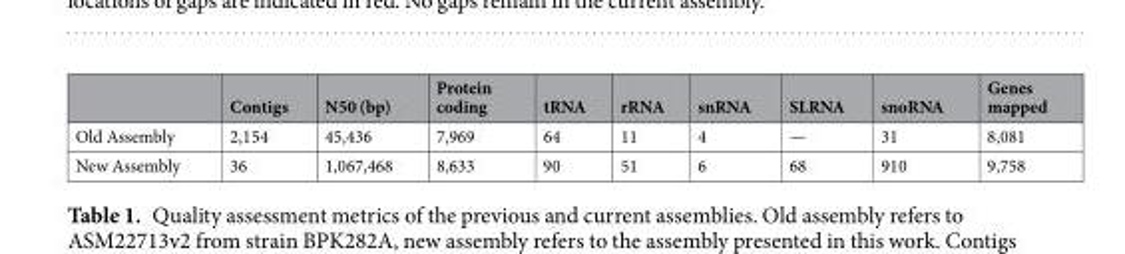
<table><thead><tr><td></td><td>Contigs</td><td>N50 (bp)</td><td>Protein coding</td><td>tRNA</td><td>rRNA</td><td>snRNA</td><td>SLRNA</td><td>snoRNA</td><td>Genes mapped</td></tr></thead><tbody><tr><td>Old Assembly</td><td>2,154</td><td>45,436</td><td>7,969</td><td>64</td><td>11</td><td>4</td><td>—</td><td>31</td><td>8,081</td></tr><tr><td>New Assembly</td><td>36</td><td>1,067,468</td><td>8,633</td><td>90</td><td>51</td><td>6</td><td>68</td><td>910</td><td>9,758</td></tr></tbody></table>